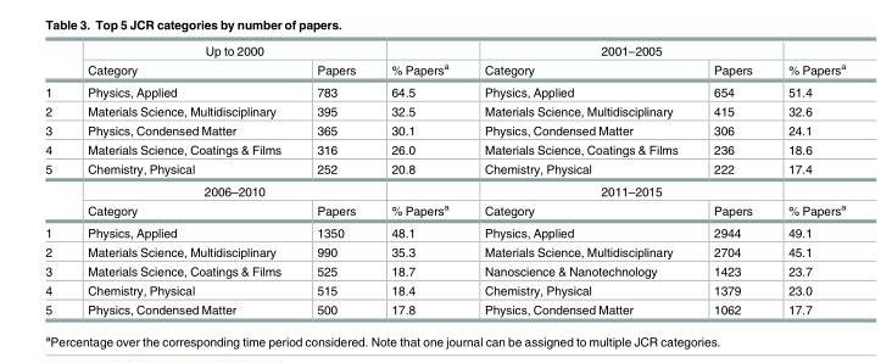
<table><thead><tr><td rowspan="2"></td><td colspan="2">Up to 2000</td><td rowspan="2">% Papers<sup>a</sup></td><td colspan="2">2001–2005</td><td rowspan="2">% Papers<sup>a</sup></td></tr><tr><td>Category</td><td>Papers</td><td>Category</td><td>Papers</td></tr></thead><tbody><tr><td>1</td><td>Physics, Applied</td><td>783</td><td>64.5</td><td>Physics, Applied</td><td>654</td><td>51.4</td></tr><tr><td>2</td><td>Materials Science, Multidisciplinary</td><td>395</td><td>32.5</td><td>Materials Science, Multidisciplinary</td><td>415</td><td>32.6</td></tr><tr><td>3</td><td>Physics, Condensed Matter</td><td>365</td><td>30.1</td><td>Physics, Condensed Matter</td><td>306</td><td>24.1</td></tr><tr><td>4</td><td>Materials Science, Coatings &amp; Films</td><td>316</td><td>26.0</td><td>Materials Science, Coatings &amp; Films</td><td>236</td><td>18.6</td></tr><tr><td rowspan="3">5</td><td>Chemistry, Physical</td><td>252</td><td>20.8</td><td>Chemistry, Physical</td><td>222</td><td>17.4</td></tr><tr><td colspan="2">2006–2010</td><td></td><td colspan="2">2011–2015</td><td></td></tr><tr><td>Category</td><td>Papers</td><td>% Papers<sup>a</sup></td><td>Category</td><td>Papers</td><td>% Papers<sup>a</sup></td></tr><tr><td>1</td><td>Physics, Applied</td><td>1350</td><td>48.1</td><td>Physics, Applied</td><td>2944</td><td>49.1</td></tr><tr><td>2</td><td>Materials Science, Multidisciplinary</td><td>990</td><td>35.3</td><td>Materials Science, Multidisciplinary</td><td>2704</td><td>45.1</td></tr><tr><td>3</td><td>Materials Science, Coatings &amp; Films</td><td>525</td><td>18.7</td><td>Nanoscience &amp; Nanotechnology</td><td>1423</td><td>23.7</td></tr><tr><td>4</td><td>Chemistry, Physical</td><td>515</td><td>18.4</td><td>Chemistry, Physical</td><td>1379</td><td>23.0</td></tr><tr><td>5</td><td>Physics, Condensed Matter</td><td>500</td><td>17.8</td><td>Physics, Condensed Matter</td><td>1062</td><td>17.7</td></tr></tbody></table>